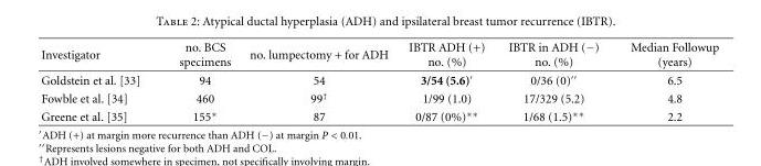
<table><thead><tr><td>Investigator</td><td>no. BCS specimens</td><td>no. lumpectomy + for ADH</td><td>IBTR ADH (+) no. (%)</td><td>IBTR in ADH (−) no. (%)</td><td>Median Followup (years)</td></tr></thead><tbody><tr><td>Goldstein et al. [33]</td><td>94</td><td>54</td><td>3/54 (5.6)′</td><td>0/36 (0)′′</td><td>6.5</td></tr><tr><td>Fowble et al. [34]</td><td>460</td><td>99<sup>†</sup></td><td>1/99 (1.0)</td><td>17/329 (5.2)</td><td>4.8</td></tr><tr><td>Greene et al. [35]</td><td>155∗</td><td>87</td><td>0/87 (0%)∗∗</td><td>1/68 (1.5)∗∗</td><td>2.2</td></tr></tbody></table>